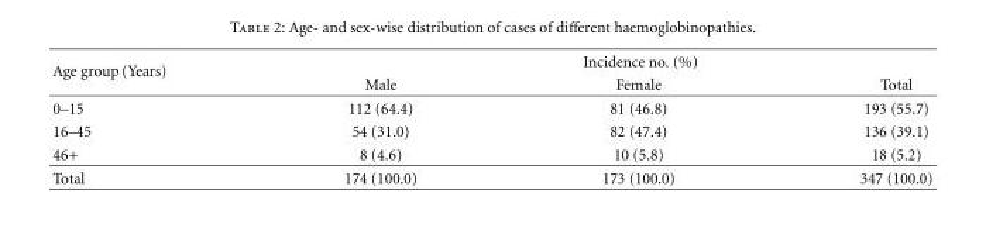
<table><thead><tr><td rowspan="2">Age group (Years)</td><td colspan="3">Incidence no. (%)</td></tr><tr><td>Male</td><td>Female</td><td>Total</td></tr></thead><tbody><tr><td>0–15</td><td>112 (64.4)</td><td>81 (46.8)</td><td>193 (55.7)</td></tr><tr><td>16–45</td><td>54 (31.0)</td><td>82 (47.4)</td><td>136 (39.1)</td></tr><tr><td>46+</td><td>8 (4.6)</td><td>10 (5.8)</td><td>18 (5.2)</td></tr><tr><td>Total</td><td>174 (100.0)</td><td>173 (100.0)</td><td>347 (100.0)</td></tr></tbody></table>